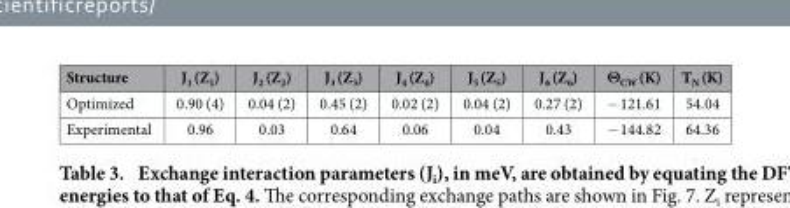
<table><thead><tr><td>Structure</td><td>J<sub>1</sub> (Z<sub>1</sub>)</td><td>J<sub>2</sub> (Z<sub>2</sub>)</td><td>J<sub>3</sub> (Z<sub>3</sub>)</td><td>J<sub>4</sub> (Z<sub>4</sub>)</td><td>J<sub>5</sub> (Z<sub>5</sub>)</td><td>J<sub>6</sub> (Z<sub>6</sub>)</td><td>Θ<sub>CW</sub> (K)</td><td>T<sub>N</sub> (K)</td></tr></thead><tbody><tr><td>Optimized</td><td>0.90 (4)</td><td>0.04 (2)</td><td>0.45 (2)</td><td>0.02 (2)</td><td>0.04 (2)</td><td>0.27 (2)</td><td>− 121.61</td><td>54.04</td></tr><tr><td>Experimental</td><td>0.96</td><td>0.03</td><td>0.64</td><td>0.06</td><td>0.04</td><td>0.43</td><td>− 144.82</td><td>64.36</td></tr></tbody></table>